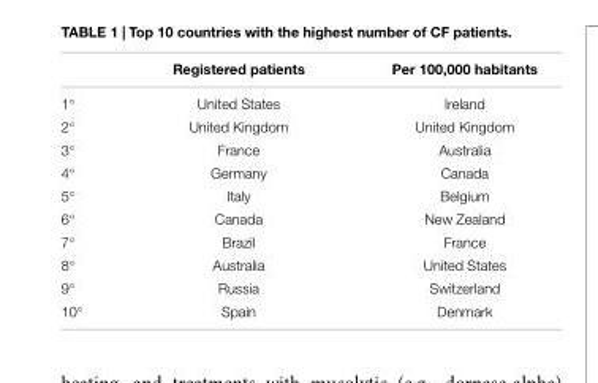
<table><thead><tr><td></td><td>Registered patients</td><td>Per 100,000 habitants</td></tr></thead><tbody><tr><td>1◦</td><td>United States</td><td>Ireland</td></tr><tr><td>2◦</td><td>United Kingdom</td><td>United Kingdom</td></tr><tr><td>3◦</td><td>France</td><td>Australia</td></tr><tr><td>4◦</td><td>Germany</td><td>Canada</td></tr><tr><td>5◦</td><td>Italy</td><td>Belgium</td></tr><tr><td>6◦</td><td>Canada</td><td>New Zealand</td></tr><tr><td>7◦</td><td>Brazil</td><td>France</td></tr><tr><td>8◦</td><td>Australia</td><td>United States</td></tr><tr><td>9◦</td><td>Russia</td><td>Switzerland</td></tr><tr><td>10◦</td><td>Spain</td><td>Denmark</td></tr></tbody></table>